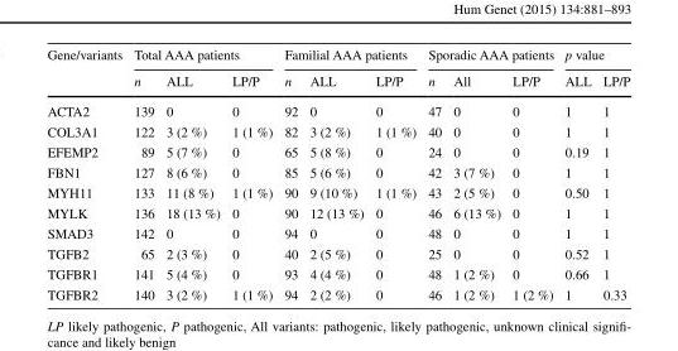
<table><thead><tr><td rowspan="2">Gene/variants</td><td colspan="3">Total AAA patients</td><td colspan="3">Familial AAA patients</td><td colspan="3">Sporadic AAA patients</td><td colspan="2">p value</td></tr><tr><td>n</td><td>ALL</td><td>LP/P</td><td>n</td><td>ALL</td><td>LP/P</td><td>n</td><td>All</td><td>LP/P</td><td>ALL</td><td>LP/P</td></tr></thead><tbody><tr><td>ACTA2</td><td>139</td><td>0</td><td>0</td><td>92</td><td>0</td><td>0</td><td>47</td><td>0</td><td>0</td><td>1</td><td>1</td></tr><tr><td>COL3A1</td><td>122</td><td>3 (2 %)</td><td>1 (1 %)</td><td>82</td><td>3 (2 %)</td><td>1 (1 %)</td><td>40</td><td>0</td><td>0</td><td>1</td><td>1</td></tr><tr><td>EFEMP2</td><td>89</td><td>5 (7 %)</td><td>0</td><td>65</td><td>5 (8 %)</td><td>0</td><td>24</td><td>0</td><td>0</td><td>0.19</td><td>1</td></tr><tr><td>FBN1</td><td>127</td><td>8 (6 %)</td><td>0</td><td>85</td><td>5 (6 %)</td><td>0</td><td>42</td><td>3 (7 %)</td><td>0</td><td>1</td><td>1</td></tr><tr><td>MYH11</td><td>133</td><td>11 (8 %)</td><td>1 (1 %)</td><td>90</td><td>9 (10 %)</td><td>1 (1 %)</td><td>43</td><td>2 (5 %)</td><td>0</td><td>0.50</td><td>1</td></tr><tr><td>MYLK</td><td>136</td><td>18 (13 %)</td><td>0</td><td>90</td><td>12 (13 %)</td><td>0</td><td>46</td><td>6 (13 %)</td><td>0</td><td>1</td><td>1</td></tr><tr><td>SMAD3</td><td>142</td><td>0</td><td>0</td><td>94</td><td>0</td><td>0</td><td>48</td><td>0</td><td>0</td><td>1</td><td>1</td></tr><tr><td>TGFB2</td><td>65</td><td>2 (3 %)</td><td>0</td><td>40</td><td>2 (5 %)</td><td>0</td><td>25</td><td>0</td><td>0</td><td>0.52</td><td>1</td></tr><tr><td>TGFBR1</td><td>141</td><td>5 (4 %)</td><td>0</td><td>93</td><td>4 (4 %)</td><td>0</td><td>48</td><td>1 (2 %)</td><td>0</td><td>0.66</td><td>1</td></tr><tr><td>TGFBR2</td><td>140</td><td>3 (2 %)</td><td>1 (1 %)</td><td>94</td><td>2 (2 %)</td><td>0</td><td>46</td><td>1 (2 %)</td><td>1 (2 %)</td><td>1</td><td>0.33</td></tr></tbody></table>